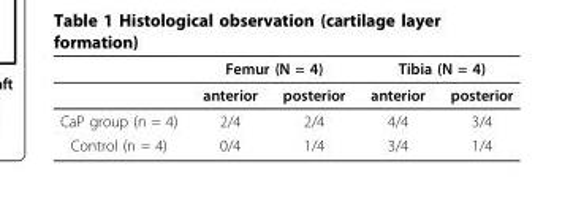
<table><thead><tr><td rowspan="2"></td><td colspan="2">Femur (N = 4)</td><td colspan="2">Tibia (N = 4)</td></tr><tr><td>anterior</td><td>posterior</td><td>anterior</td><td>posterior</td></tr></thead><tbody><tr><td>CaP group (n = 4)</td><td>2/4</td><td>2/4</td><td>4/4</td><td>3/4</td></tr><tr><td>Control (n = 4)</td><td>0/4</td><td>1/4</td><td>3/4</td><td>1/4</td></tr></tbody></table>